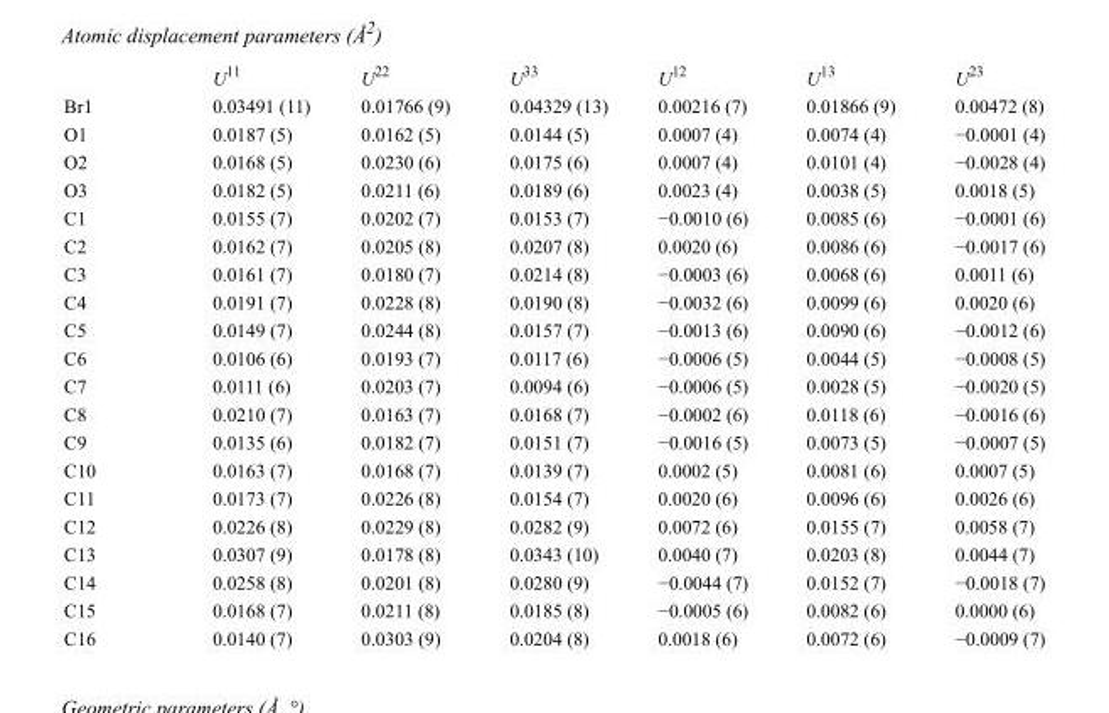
<table><thead><tr><td></td><td>U<sup>11</sup></td><td>U<sup>22</sup></td><td>U<sup>33</sup></td><td>U<sup>12</sup></td><td>U<sup>13</sup></td><td>U<sup>23</sup></td></tr></thead><tbody><tr><td>Br1</td><td>0.03491 (11)</td><td>0.01766 (9)</td><td>0.04329 (13)</td><td>0.00216 (7)</td><td>0.01866 (9)</td><td>0.00472 (8)</td></tr><tr><td>O1</td><td>0.0187 (5)</td><td>0.0162 (5)</td><td>0.0144 (5)</td><td>0.0007 (4)</td><td>0.0074 (4)</td><td>−0.0001 (4)</td></tr><tr><td>O2</td><td>0.0168 (5)</td><td>0.0230 (6)</td><td>0.0175 (6)</td><td>0.0007 (4)</td><td>0.0101 (4)</td><td>−0.0028 (4)</td></tr><tr><td>O3</td><td>0.0182 (5)</td><td>0.0211 (6)</td><td>0.0189 (6)</td><td>0.0023 (4)</td><td>0.0038 (5)</td><td>0.0018 (5)</td></tr><tr><td>C1</td><td>0.0155 (7)</td><td>0.0202 (7)</td><td>0.0153 (7)</td><td>−0.0010 (6)</td><td>0.0085 (6)</td><td>−0.0001 (6)</td></tr><tr><td>C2</td><td>0.0162 (7)</td><td>0.0205 (8)</td><td>0.0207 (8)</td><td>0.0020 (6)</td><td>0.0086 (6)</td><td>−0.0017 (6)</td></tr><tr><td>C3</td><td>0.0161 (7)</td><td>0.0180 (7)</td><td>0.0214 (8)</td><td>−0.0003 (6)</td><td>0.0068 (6)</td><td>0.0011 (6)</td></tr><tr><td>C4</td><td>0.0191 (7)</td><td>0.0228 (8)</td><td>0.0190 (8)</td><td>−0.0032 (6)</td><td>0.0099 (6)</td><td>0.0020 (6)</td></tr><tr><td>C5</td><td>0.0149 (7)</td><td>0.0244 (8)</td><td>0.0157 (7)</td><td>−0.0013 (6)</td><td>0.0090 (6)</td><td>−0.0012 (6)</td></tr><tr><td>C6</td><td>0.0106 (6)</td><td>0.0193 (7)</td><td>0.0117 (6)</td><td>−0.0006 (5)</td><td>0.0044 (5)</td><td>−0.0008 (5)</td></tr><tr><td>C7</td><td>0.0111 (6)</td><td>0.0203 (7)</td><td>0.0094 (6)</td><td>−0.0006 (5)</td><td>0.0028 (5)</td><td>−0.0020 (5)</td></tr><tr><td>C8</td><td>0.0210 (7)</td><td>0.0163 (7)</td><td>0.0168 (7)</td><td>−0.0002 (6)</td><td>0.0118 (6)</td><td>−0.0016 (6)</td></tr><tr><td>C9</td><td>0.0135 (6)</td><td>0.0182 (7)</td><td>0.0151 (7)</td><td>−0.0016 (5)</td><td>0.0073 (5)</td><td>−0.0007 (5)</td></tr><tr><td>C10</td><td>0.0163 (7)</td><td>0.0168 (7)</td><td>0.0139 (7)</td><td>0.0002 (5)</td><td>0.0081 (6)</td><td>0.0007 (5)</td></tr><tr><td>C11</td><td>0.0173 (7)</td><td>0.0226 (8)</td><td>0.0154 (7)</td><td>0.0020 (6)</td><td>0.0096 (6)</td><td>0.0026 (6)</td></tr><tr><td>C12</td><td>0.0226 (8)</td><td>0.0229 (8)</td><td>0.0282 (9)</td><td>0.0072 (6)</td><td>0.0155 (7)</td><td>0.0058 (7)</td></tr><tr><td>C13</td><td>0.0307 (9)</td><td>0.0178 (8)</td><td>0.0343 (10)</td><td>0.0040 (7)</td><td>0.0203 (8)</td><td>0.0044 (7)</td></tr><tr><td>C14</td><td>0.0258 (8)</td><td>0.0201 (8)</td><td>0.0280 (9)</td><td>−0.0044 (7)</td><td>0.0152 (7)</td><td>−0.0018 (7)</td></tr><tr><td>C15</td><td>0.0168 (7)</td><td>0.0211 (8)</td><td>0.0185 (8)</td><td>−0.0005 (6)</td><td>0.0082 (6)</td><td>0.0000 (6)</td></tr><tr><td>C16</td><td>0.0140 (7)</td><td>0.0303 (9)</td><td>0.0204 (8)</td><td>0.0018 (6)</td><td>0.0072 (6)</td><td>−0.0009 (7)</td></tr></tbody></table>